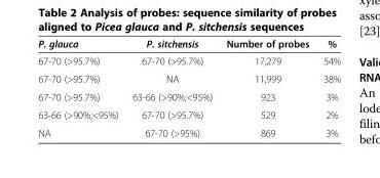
<table><thead><tr><td>P. glauca</td><td>P. sitchensis</td><td>Number of probes</td><td>%</td></tr></thead><tbody><tr><td>67-70 (&gt;95.7%)</td><td>67-70 (&gt;95.7%)</td><td>17,279</td><td>54%</td></tr><tr><td>67-70 (&gt;95.7%)</td><td>NA</td><td>11,999</td><td>38%</td></tr><tr><td>67-70 (&gt;95.7%)</td><td>63-66 (&gt;90%;&lt;95%)</td><td>923</td><td>3%</td></tr><tr><td>63-66 (&gt;90%;&lt;95%)</td><td>67-70 (&gt;95.7%)</td><td>529</td><td>2%</td></tr><tr><td>NA</td><td>67-70 (&gt;95%)</td><td>869</td><td>3%</td></tr></tbody></table>